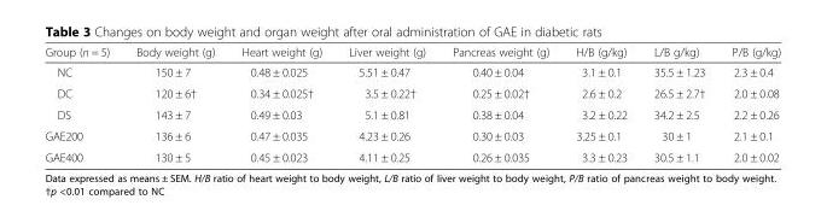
<table><thead><tr><td>Group (n = 5)</td><td>Body weight (g)</td><td>Heart weight (g)</td><td>Liver weight (g)</td><td>Pancreas weight (g)</td><td>H/B (g/kg)</td><td>L/B g/kg)</td><td>P/B (g/kg)</td></tr></thead><tbody><tr><td>NC</td><td>150 ± 7</td><td>0.48 ± 0.025</td><td>5.51 ± 0.47</td><td>0.40 ± 0.04</td><td>3.1 ± 0.1</td><td>35.5 ± 1.23</td><td>2.3 ± 0.4</td></tr><tr><td>DC</td><td>120 ± 6†</td><td>0.34 ± 0.025†</td><td>3.5 ± 0.22†</td><td>0.25 ± 0.02†</td><td>2.6 ± 0.2</td><td>26.5 ± 2.7†</td><td>2.0 ± 0.08</td></tr><tr><td>DS</td><td>143 ± 7</td><td>0.49 ± 0.03</td><td>5.1 ± 0.81</td><td>0.38 ± 0.04</td><td>3.2 ± 0.22</td><td>34.2 ± 2.5</td><td>2.2 ± 0.26</td></tr><tr><td>GAE200</td><td>136 ± 6</td><td>0.47 ± 0.035</td><td>4.23 ± 0.26</td><td>0.30 ± 0.03</td><td>3.25 ± 0.1</td><td>30 ± 1</td><td>2.1 ± 0.1</td></tr><tr><td>GAE400</td><td>130 ± 5</td><td>0.45 ± 0.023</td><td>4.11 ± 0.25</td><td>0.26 ± 0.035</td><td>3.3 ± 0.23</td><td>30.5 ± 1.1</td><td>2.0 ± 0.02</td></tr></tbody></table>